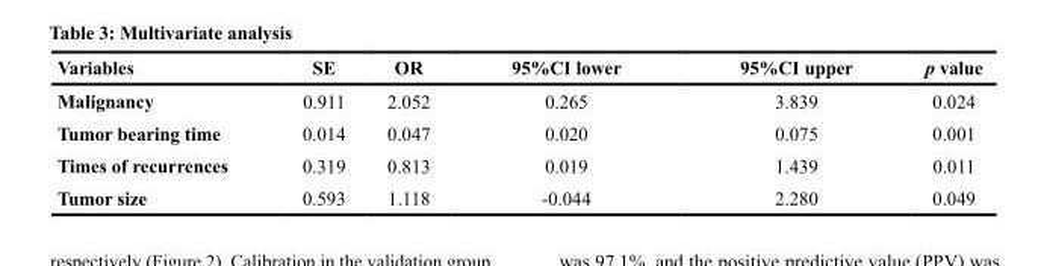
<table><thead><tr><td>Variables</td><td>SE</td><td>OR</td><td>95%CI lower</td><td>95%CI upper</td><td>p value</td></tr></thead><tbody><tr><td>Malignancy</td><td>0.911</td><td>2.052</td><td>0.265</td><td>3.839</td><td>0.024</td></tr><tr><td>Tumor bearing time</td><td>0.014</td><td>0.047</td><td>0.020</td><td>0.075</td><td>0.001</td></tr><tr><td>Times of recurrences</td><td>0.319</td><td>0.813</td><td>0.019</td><td>1.439</td><td>0.011</td></tr><tr><td>Tumor size</td><td>0.593</td><td>1.118</td><td>-0.044</td><td>2.280</td><td>0.049</td></tr></tbody></table>